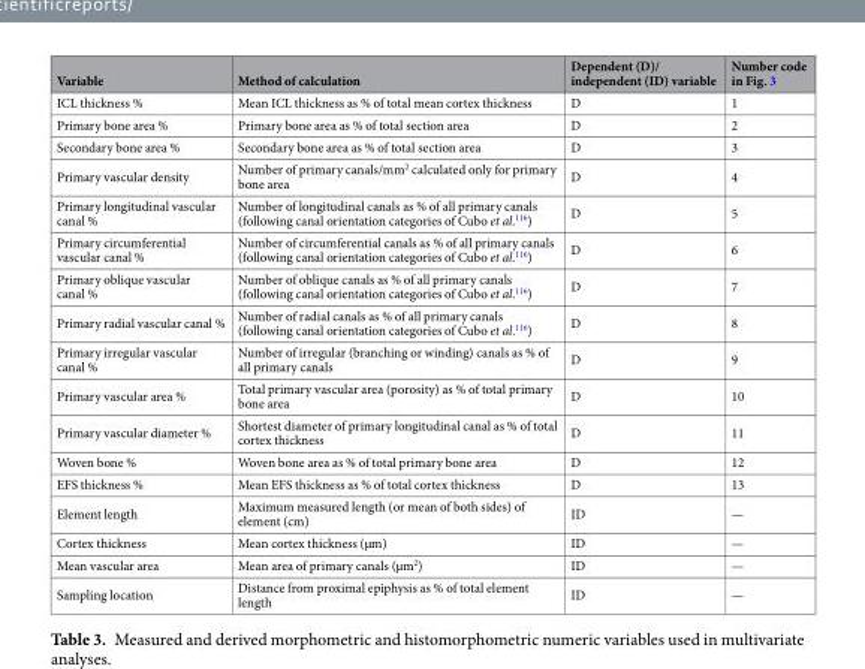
<table><thead><tr><td>Variable</td><td>Method of calculation</td><td>Dependent (D)/ independent (ID) variable</td><td>Number code in Fig. 3</td></tr></thead><tbody><tr><td>ICL thickness %</td><td>Mean ICL thickness as % of total mean cortex thickness</td><td>D</td><td>1</td></tr><tr><td>Primary bone area %</td><td>Primary bone area as % of total section area</td><td>D</td><td>2</td></tr><tr><td>Secondary bone area %</td><td>Secondary bone area as % of total section area</td><td>D</td><td>3</td></tr><tr><td>Primary vascular density</td><td>Number of primary canals/mm<sup>2</sup> calculated only for primary bone area</td><td>D</td><td>4</td></tr><tr><td>Primary longitudinal vascular canal %</td><td>Number of longitudinal canals as % of all primary canals (following canal orientation categories of Cubo et al.<sup>116</sup>)</td><td>D</td><td>5</td></tr><tr><td>Primary circumferential vascular canal %</td><td>Number of circumferential canals as % of all primary canals (following canal orientation categories of Cubo et al.<sup>116</sup>)</td><td>D</td><td>6</td></tr><tr><td>Primary oblique vascular canal %</td><td>Number of oblique canals as % of all primary canals (following canal orientation categories of Cubo et al.<sup>116</sup>)</td><td>D</td><td>7</td></tr><tr><td>Primary radial vascular canal %</td><td>Number of radial canals as % of all primary canals (following canal orientation categories of Cubo et al.<sup>116</sup>)</td><td>D</td><td>8</td></tr><tr><td>Primary irregular vascular canal %</td><td>Number of irregular (branching or winding) canals as % of all primary canals</td><td>D</td><td>9</td></tr><tr><td>Primary vascular area %</td><td>Total primary vascular area (porosity) as % of total primary bone area</td><td>D</td><td>10</td></tr><tr><td>Primary vascular diameter %</td><td>Shortest diameter of primary longitudinal canal as % of total cortex thickness</td><td>D</td><td>11</td></tr><tr><td>Woven bone %</td><td>Woven bone area as % of total primary bone area</td><td>D</td><td>12</td></tr><tr><td>EFS thickness %</td><td>Mean EFS thickness as % of total cortex thickness</td><td>D</td><td>13</td></tr><tr><td>Element length</td><td>Maximum measured length (or mean of both sides) of element (cm)</td><td>ID</td><td>—</td></tr><tr><td>Cortex thickness</td><td>Mean cortex thickness (µm)</td><td>ID</td><td>—</td></tr><tr><td>Mean vascular area</td><td>Mean area of primary canals (µm<sup>2</sup>)</td><td>ID</td><td>—</td></tr><tr><td>Sampling location</td><td>Distance from proximal epiphysis as % of total element length</td><td>ID</td><td>—</td></tr></tbody></table>